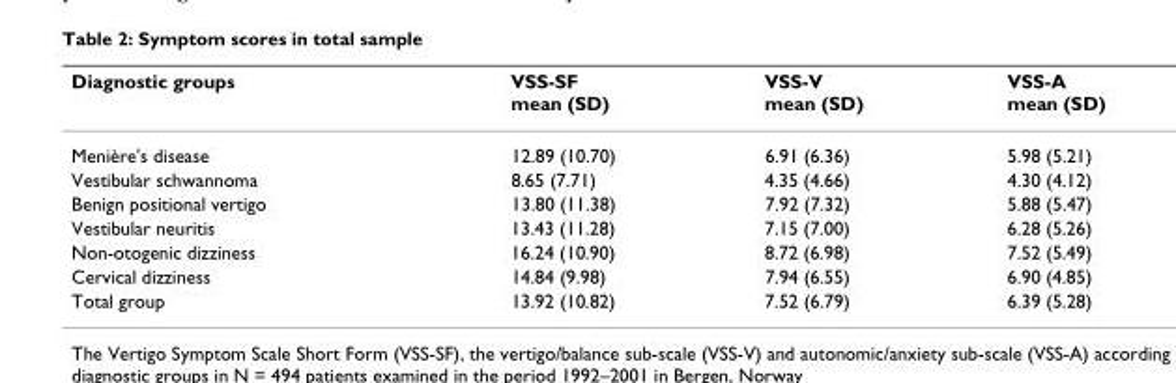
<table><thead><tr><td>Diagnostic groups</td><td>VSS-SF mean (SD)</td><td>VSS-V mean (SD)</td><td>VSS-A mean (SD)</td></tr></thead><tbody><tr><td>Menière&#x27;s disease</td><td>12.89 (10.70)</td><td>6.91 (6.36)</td><td>5.98 (5.21)</td></tr><tr><td>Vestibular schwannoma</td><td>8.65 (7.71)</td><td>4.35 (4.66)</td><td>4.30 (4.12)</td></tr><tr><td>Benign positional vertigo</td><td>13.80 (11.38)</td><td>7.92 (7.32)</td><td>5.88 (5.47)</td></tr><tr><td>Vestibular neuritis</td><td>13.43 (11.28)</td><td>7.15 (7.00)</td><td>6.28 (5.26)</td></tr><tr><td>Non-otogenic dizziness</td><td>16.24 (10.90)</td><td>8.72 (6.98)</td><td>7.52 (5.49)</td></tr><tr><td>Cervical dizziness</td><td>14.84 (9.98)</td><td>7.94 (6.55)</td><td>6.90 (4.85)</td></tr><tr><td>Total group</td><td>13.92 (10.82)</td><td>7.52 (6.79)</td><td>6.39 (5.28)</td></tr></tbody></table>